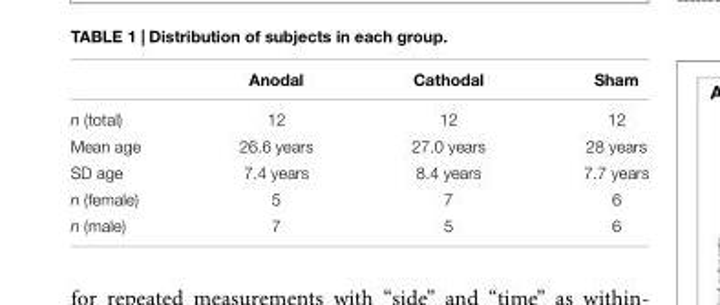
<table><thead><tr><td></td><td>Anodal</td><td>Cathodal</td><td>Sham</td></tr></thead><tbody><tr><td>n (total)</td><td>12</td><td>12</td><td>12</td></tr><tr><td>Mean age</td><td>26.6 years</td><td>27.0 years</td><td>28 years</td></tr><tr><td>SD age</td><td>7.4 years</td><td>8.4 years</td><td>7.7 years</td></tr><tr><td>n (female)</td><td>5</td><td>7</td><td>6</td></tr><tr><td>n (male)</td><td>7</td><td>5</td><td>6</td></tr></tbody></table>